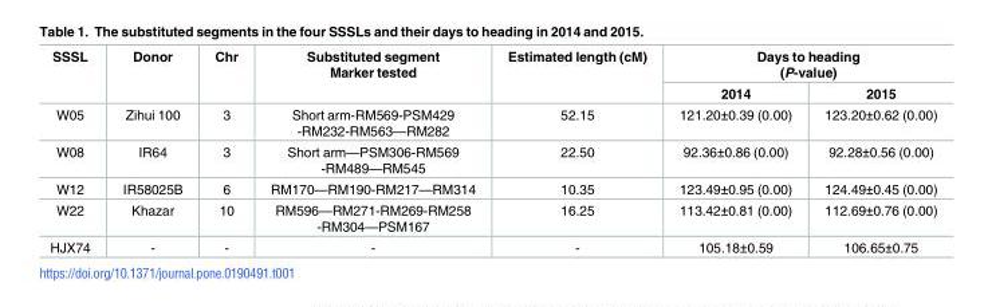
<table><thead><tr><td rowspan="2">SSSL</td><td rowspan="2">Donor</td><td rowspan="2">Chr</td><td rowspan="2">Substituted segment Marker tested</td><td rowspan="2">Estimated length (cM)</td><td colspan="2">Days to heading (P-value)</td></tr><tr><td>2014</td><td>2015</td></tr></thead><tbody><tr><td>W05</td><td>Zihui 100</td><td>3</td><td>Short arm-RM569-PSM429 -RM232-RM563—RM282</td><td>52.15</td><td>121.20±0.39 (0.00)</td><td>123.20±0.62 (0.00)</td></tr><tr><td>W08</td><td>IR64</td><td>3</td><td>Short arm—PSM306-RM569 -RM489—RM545</td><td>22.50</td><td>92.36±0.86 (0.00)</td><td>92.28±0.56 (0.00)</td></tr><tr><td>W12</td><td>IR58025B</td><td>6</td><td>RM170—RM190-RM217—RM314</td><td>10.35</td><td>123.49±0.95 (0.00)</td><td>124.49±0.45 (0.00)</td></tr><tr><td>W22</td><td>Khazar</td><td>10</td><td>RM596—RM271-RM269-RM258 -RM304—PSM167</td><td>16.25</td><td>113.42±0.81 (0.00)</td><td>112.69±0.76 (0.00)</td></tr><tr><td>HJX74</td><td>-</td><td>-</td><td>-</td><td>-</td><td>105.18±0.59</td><td>106.65±0.75</td></tr></tbody></table>